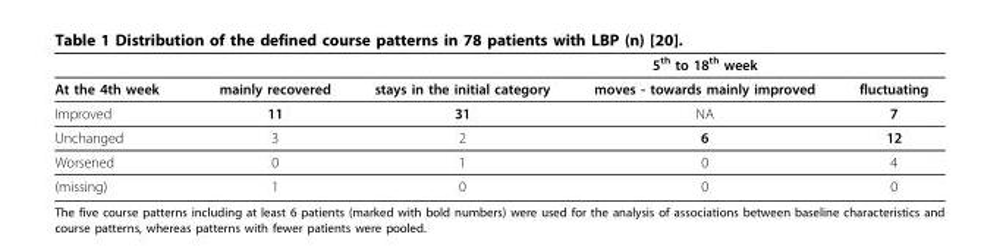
<table><thead><tr><td></td><td></td><td></td><td>5th to 18th week</td><td></td></tr></thead><tbody><tr><td>At the 4th week</td><td>mainly recovered</td><td>stays in the initial category</td><td>moves - towards mainly improved</td><td>fluctuating</td></tr><tr><td>Improved</td><td>11</td><td>31</td><td>NA</td><td>7</td></tr><tr><td>Unchanged</td><td>3</td><td>2</td><td>6</td><td>12</td></tr><tr><td>Worsened</td><td>0</td><td>1</td><td>0</td><td>4</td></tr><tr><td>(missing)</td><td>1</td><td>0</td><td>0</td><td>0</td></tr></tbody></table>